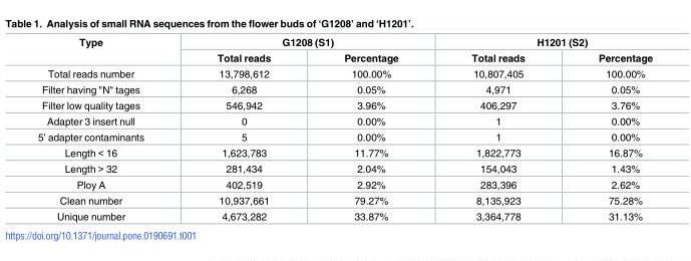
<table><thead><tr><td rowspan="2">Type</td><td colspan="2">G1208 (S1)</td><td colspan="2">H1201 (S2)</td></tr><tr><td>Total reads</td><td>Percentage</td><td>Total reads</td><td>Percentage</td></tr></thead><tbody><tr><td>Total reads number</td><td>13,798,612</td><td>100.00%</td><td>10,807,405</td><td>100.00%</td></tr><tr><td>Filter having &quot;N&quot; tages</td><td>6,268</td><td>0.05%</td><td>4,971</td><td>0.05%</td></tr><tr><td>Filter low quality tages</td><td>546,942</td><td>3.96%</td><td>406,297</td><td>3.76%</td></tr><tr><td>Adapter 3 insert null</td><td>0</td><td>0.00%</td><td>1</td><td>0.00%</td></tr><tr><td>5’ adapter contaminants</td><td>5</td><td>0.00%</td><td>1</td><td>0.00%</td></tr><tr><td>Length &lt; 16</td><td>1,623,783</td><td>11.77%</td><td>1,822,773</td><td>16.87%</td></tr><tr><td>Length &gt; 32</td><td>281,434</td><td>2.04%</td><td>154,043</td><td>1.43%</td></tr><tr><td>Ploy A</td><td>402,519</td><td>2.92%</td><td>283,396</td><td>2.62%</td></tr><tr><td>Clean number</td><td>10,937,661</td><td>79.27%</td><td>8,135,923</td><td>75.28%</td></tr><tr><td>Unique number</td><td>4,673,282</td><td>33.87%</td><td>3,364,778</td><td>31.13%</td></tr></tbody></table>